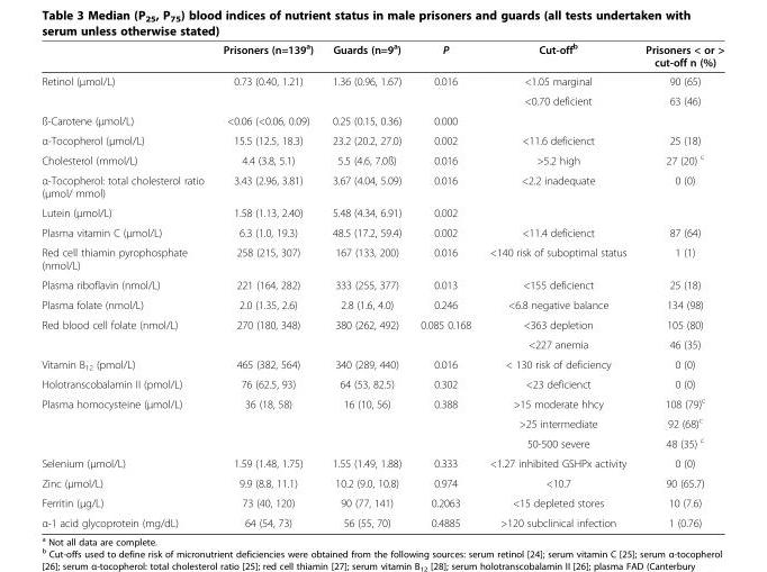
<table><thead><tr><td></td><td>Prisoners (n=139<sup>a</sup>)</td><td>Guards (n=9<sup>a</sup>)</td><td>P</td><td>Cut-off<sup>b</sup></td><td>Prisoners &lt; or &gt; cut-off n (%)</td></tr></thead><tbody><tr><td rowspan="2">Retinol (μmol/L)</td><td rowspan="2">0.73 (0.40, 1.21)</td><td rowspan="2">1.36 (0.96, 1.67)</td><td rowspan="2">0.016</td><td>&lt;1.05 marginal</td><td>90 (65)</td></tr><tr><td>&lt;0.70 deficient</td><td>63 (46)</td></tr><tr><td>ß-Carotene (μmol/L)</td><td>&lt;0.06 (&lt;0.06, 0.09)</td><td>0.25 (0.15, 0.36)</td><td>0.000</td><td></td><td></td></tr><tr><td>α-Tocopherol (μmol/L)</td><td>15.5 (12.5, 18.3)</td><td>23.2 (20.2, 27.0)</td><td>0.002</td><td>&lt;11.6 deficienct</td><td>25 (18)</td></tr><tr><td>Cholesterol (mmol/L)</td><td>4.4 (3.8, 5.1)</td><td>5.5 (4.6, 7.0ß)</td><td>0.016</td><td>&gt;5.2 high</td><td>27 (20) <sup>c</sup></td></tr><tr><td>α-Tocopherol: total cholesterol ratio (μmol/ mmol)</td><td>3.43 (2.96, 3.81)</td><td>3.67 (4.04, 5.09)</td><td>0.016</td><td>&lt;2.2 inadequate</td><td>0 (0)</td></tr><tr><td>Lutein (μmol/L)</td><td>1.58 (1.13, 2.40)</td><td>5.48 (4.34, 6.91)</td><td>0.002</td><td></td><td></td></tr><tr><td>Plasma vitamin C (μmol/L)</td><td>6.3 (1.0, 19.3)</td><td>48.5 (17.2, 59.4)</td><td>0.002</td><td>&lt;11.4 deficienct</td><td>87 (64)</td></tr><tr><td>Red cell thiamin pyrophosphate (nmol/L)</td><td>258 (215, 307)</td><td>167 (133, 200)</td><td>0.016</td><td>&lt;140 risk of suboptimal status</td><td>1 (1)</td></tr><tr><td>Plasma riboflavin (nmol/L)</td><td>221 (164, 282)</td><td>333 (255, 377)</td><td>0.013</td><td>&lt;155 deficienct</td><td>25 (18)</td></tr><tr><td>Plasma folate (nmol/L)</td><td>2.0 (1.35, 2.6)</td><td>2.8 (1.6, 4.0)</td><td>0.246</td><td>&lt;6.8 negative balance</td><td>134 (98)</td></tr><tr><td rowspan="2">Red blood cell folate (nmol/L)</td><td rowspan="2">270 (180, 348)</td><td rowspan="2">380 (262, 492)</td><td rowspan="2">0.085 0.168</td><td>&lt;363 depletion</td><td>105 (80)</td></tr><tr><td>&lt;227 anemia</td><td>46 (35)</td></tr><tr><td>Vitamin B<sub>12</sub> (pmol/L)</td><td>465 (382, 564)</td><td>340 (289, 440)</td><td>0.016</td><td>&lt; 130 risk of deficiency</td><td>0 (0)</td></tr><tr><td>Holotranscobalamin II (pmol/L)</td><td>76 (62.5, 93)</td><td>64 (53, 82.5)</td><td>0.302</td><td>&lt;23 deficienct</td><td>0 (0)</td></tr><tr><td rowspan="3">Plasma homocysteine (μmol/L)</td><td rowspan="3">36 (18, 58)</td><td rowspan="3">16 (10, 56)</td><td rowspan="3">0.388</td><td>&gt;15 moderate hhcy</td><td>108 (79)<sup>c</sup></td></tr><tr><td>&gt;25 intermediate</td><td>92 (68)<sup>c</sup></td></tr><tr><td>50-500 severe</td><td>48 (35) <sup>c</sup></td></tr><tr><td>Selenium (μmol/L)</td><td>1.59 (1.48, 1.75)</td><td>1.55 (1.49, 1.88)</td><td>0.333</td><td>&lt;1.27 inhibited GSHPx activity</td><td>0 (0)</td></tr><tr><td>Zinc (μmol/L)</td><td>9.9 (8.8, 11.1)</td><td>10.2 (9.0, 10.8)</td><td>0.974</td><td>&lt;10.7</td><td>90 (65.7)</td></tr><tr><td>Ferritin (μg/L)</td><td>73 (40, 120)</td><td>90 (77, 141)</td><td>0.2063</td><td>&lt;15 depleted stores</td><td>10 (7.6)</td></tr><tr><td>α-1 acid glycoprotein (mg/dL)</td><td>64 (54, 73)</td><td>56 (55, 70)</td><td>0.4885</td><td>&gt;120 subclinical infection</td><td>1 (0.76)</td></tr></tbody></table>